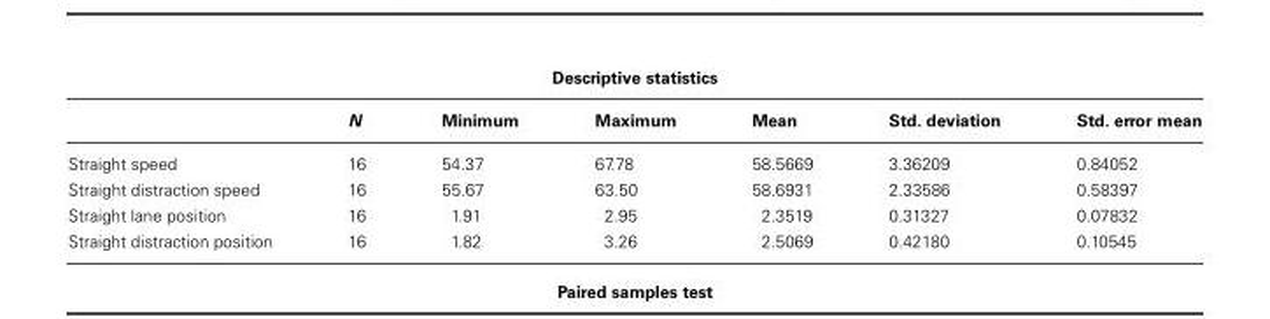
<table><thead><tr><td colspan="7">Descriptive statistics</td></tr><tr><td></td><td>N</td><td>Minimum</td><td>Maximum</td><td>Mean</td><td>Std. deviation</td><td>Std. error mean</td></tr></thead><tbody><tr><td>Straight speed</td><td>16</td><td>54.37</td><td>67.78</td><td>58.5669</td><td>3.36209</td><td>0.84052</td></tr><tr><td>Straight distraction speed</td><td>16</td><td>55.67</td><td>63.50</td><td>58.6931</td><td>2.33586</td><td>0.58397</td></tr><tr><td>Straight lane position</td><td>16</td><td>1.91</td><td>2.95</td><td>2.3519</td><td>0.31327</td><td>0.07832</td></tr><tr><td>Straight distraction position</td><td>16</td><td>1.82</td><td>3.26</td><td>2.5069</td><td>0.42180</td><td>0.10545</td></tr></tbody></table>